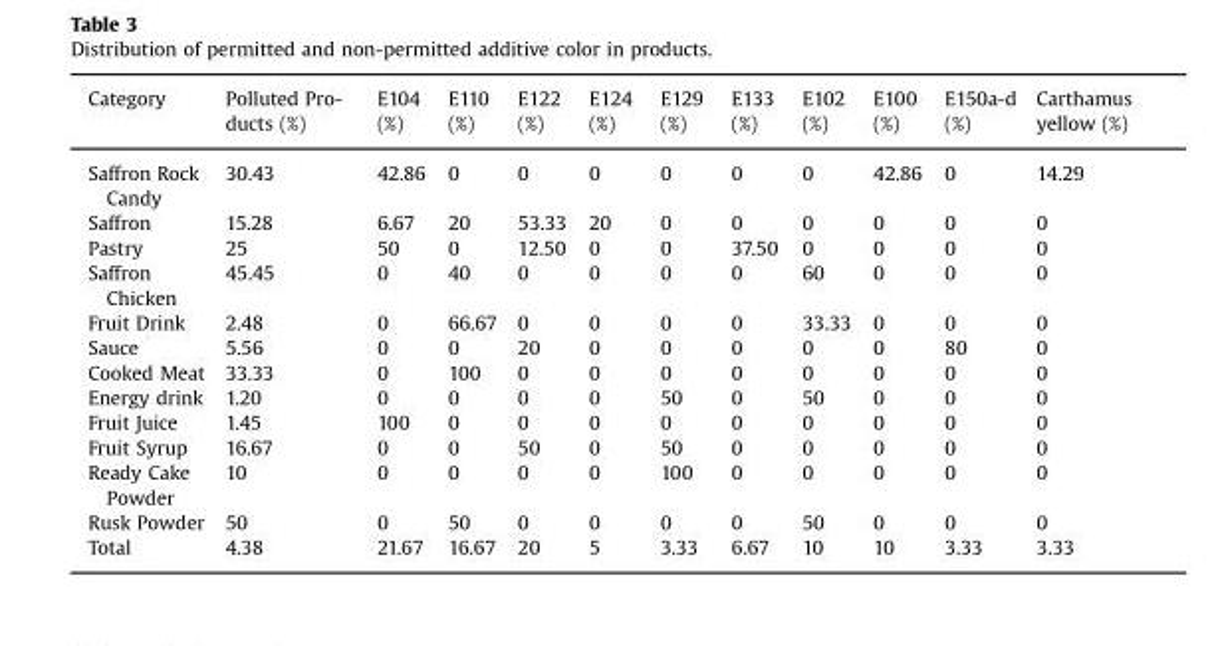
<table><thead><tr><td>Category</td><td>Polluted Pro- ducts (%)</td><td>E104 (%)</td><td>E110 (%)</td><td>E122 (%)</td><td>E124 (%)</td><td>E129 (%)</td><td>E133 (%)</td><td>E102 (%)</td><td>E100 (%)</td><td>E150a-d (%)</td><td>Carthamus yellow (%)</td></tr></thead><tbody><tr><td>Saffron Rock Candy</td><td>30.43</td><td>42.86</td><td>0</td><td>0</td><td>0</td><td>0</td><td>0</td><td>0</td><td>42.86</td><td>0</td><td>14.29</td></tr><tr><td>Saffron</td><td>15.28</td><td>6.67</td><td>20</td><td>53.33</td><td>20</td><td>0</td><td>0</td><td>0</td><td>0</td><td>0</td><td>0</td></tr><tr><td>Pastry</td><td>25</td><td>50</td><td>0</td><td>12.50</td><td>0</td><td>0</td><td>37.50</td><td>0</td><td>0</td><td>0</td><td>0</td></tr><tr><td>Saffron Chicken</td><td>45.45</td><td>0</td><td>40</td><td>0</td><td>0</td><td>0</td><td>0</td><td>60</td><td>0</td><td>0</td><td>0</td></tr><tr><td>Fruit Drink</td><td>2.48</td><td>0</td><td>66.67</td><td>0</td><td>0</td><td>0</td><td>0</td><td>33.33</td><td>0</td><td>0</td><td>0</td></tr><tr><td>Sauce</td><td>5.56</td><td>0</td><td>0</td><td>20</td><td>0</td><td>0</td><td>0</td><td>0</td><td>0</td><td>80</td><td>0</td></tr><tr><td>Cooked Meat</td><td>33.33</td><td>0</td><td>100</td><td>0</td><td>0</td><td>0</td><td>0</td><td>0</td><td>0</td><td>0</td><td>0</td></tr><tr><td>Energy drink</td><td>1.20</td><td>0</td><td>0</td><td>0</td><td>0</td><td>50</td><td>0</td><td>50</td><td>0</td><td>0</td><td>0</td></tr><tr><td>Fruit Juice</td><td>1.45</td><td>100</td><td>0</td><td>0</td><td>0</td><td>0</td><td>0</td><td>0</td><td>0</td><td>0</td><td>0</td></tr><tr><td>Fruit Syrup</td><td>16.67</td><td>0</td><td>0</td><td>50</td><td>0</td><td>50</td><td>0</td><td>0</td><td>0</td><td>0</td><td>0</td></tr><tr><td>Ready Cake Powder</td><td>10</td><td>0</td><td>0</td><td>0</td><td>0</td><td>100</td><td>0</td><td>0</td><td>0</td><td>0</td><td>0</td></tr><tr><td>Rusk Powder</td><td>50</td><td>0</td><td>50</td><td>0</td><td>0</td><td>0</td><td>0</td><td>50</td><td>0</td><td>0</td><td>0</td></tr><tr><td>Total</td><td>4.38</td><td>21.67</td><td>16.67</td><td>20</td><td>5</td><td>3.33</td><td>6.67</td><td>10</td><td>10</td><td>3.33</td><td>3.33</td></tr></tbody></table>